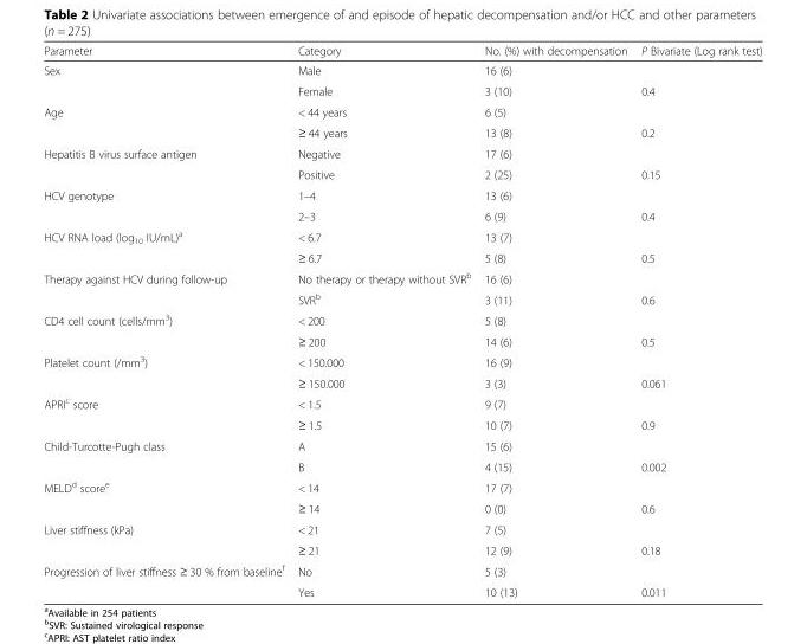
<table><thead><tr><td>Parameter</td><td>Category</td><td>No. (%) with decompensation</td><td>P Bivariate (Log rank test)</td></tr></thead><tbody><tr><td rowspan="2">Sex</td><td>Male</td><td>16 (6)</td><td></td></tr><tr><td>Female</td><td>3 (10)</td><td>0.4</td></tr><tr><td rowspan="2">Age</td><td>&lt; 44 years</td><td>6 (5)</td><td></td></tr><tr><td>≥ 44 years</td><td>13 (8)</td><td>0.2</td></tr><tr><td rowspan="2">Hepatitis B virus surface antigen</td><td>Negative</td><td>17 (6)</td><td></td></tr><tr><td>Positive</td><td>2 (25)</td><td>0.15</td></tr><tr><td rowspan="2">HCV genotype</td><td>1–4</td><td>13 (6)</td><td></td></tr><tr><td>2–3</td><td>6 (9)</td><td>0.4</td></tr><tr><td rowspan="2">HCV RNA load (log<sub>10</sub> IU/mL)<sup>a</sup></td><td>&lt; 6.7</td><td>13 (7)</td><td></td></tr><tr><td>≥ 6.7</td><td>5 (8)</td><td>0.5</td></tr><tr><td rowspan="2">Therapy against HCV during follow-up</td><td>No therapy or therapy without SVR<sup>b</sup></td><td>16 (6)</td><td></td></tr><tr><td>SVR<sup>b</sup></td><td>3 (11)</td><td>0.6</td></tr><tr><td rowspan="2">CD4 cell count (cells/mm<sup>3</sup>)</td><td>&lt; 200</td><td>5 (8)</td><td></td></tr><tr><td>≥ 200</td><td>14 (6)</td><td>0.5</td></tr><tr><td rowspan="2">Platelet count (/mm<sup>3</sup>)</td><td>&lt; 150.000</td><td>16 (9)</td><td></td></tr><tr><td>≥ 150.000</td><td>3 (3)</td><td>0.061</td></tr><tr><td rowspan="2">APRI<sup>c</sup> score</td><td>&lt; 1.5</td><td>9 (7)</td><td></td></tr><tr><td>≥ 1.5</td><td>10 (7)</td><td>0.9</td></tr><tr><td rowspan="2">Child-Turcotte-Pugh class</td><td>A</td><td>15 (6)</td><td></td></tr><tr><td>B</td><td>4 (15)</td><td>0.002</td></tr><tr><td rowspan="2">MELD<sup>d</sup> score<sup>e</sup></td><td>&lt; 14</td><td>17 (7)</td><td></td></tr><tr><td>≥ 14</td><td>0 (0)</td><td>0.6</td></tr><tr><td rowspan="2">Liver stiffness (kPa)</td><td>&lt; 21</td><td>7 (5)</td><td></td></tr><tr><td>≥ 21</td><td>12 (9)</td><td>0.18</td></tr><tr><td rowspan="2">Progression of liver stiffness ≥ 30 % from baseline<sup>f</sup></td><td>No</td><td>5 (3)</td><td></td></tr><tr><td>Yes</td><td>10 (13)</td><td>0.011</td></tr></tbody></table>